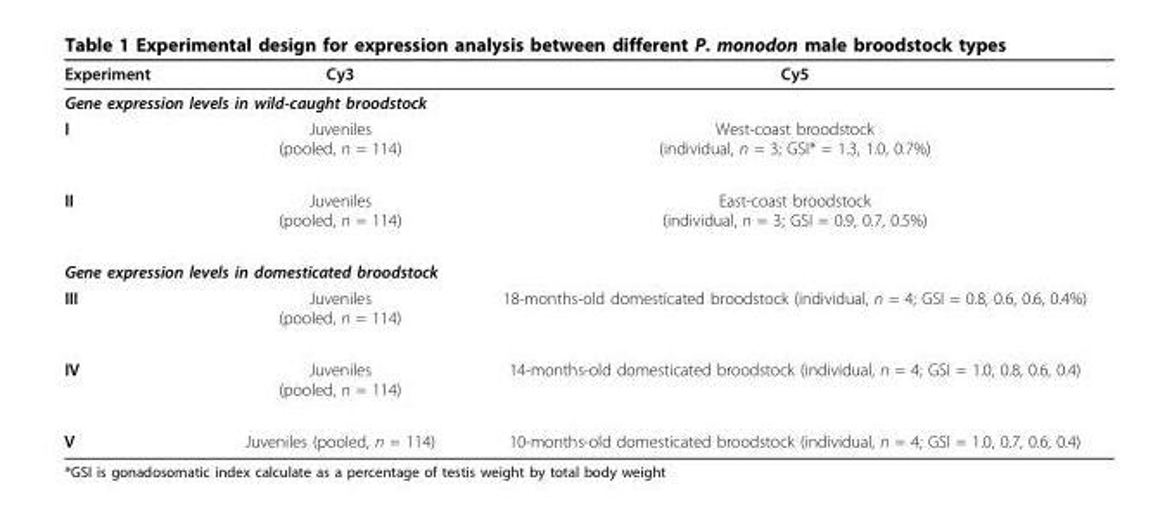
<table><thead><tr><td>Experiment</td><td>Cy3</td><td>Cy5</td></tr></thead><tbody><tr><td colspan="3">Gene expression levels in wild-caught broodstock</td></tr><tr><td>I</td><td>Juveniles (pooled, n = 114)</td><td>West-coast broodstock (individual, n = 3; GSI* = 1.3, 1.0, 0.7%)</td></tr><tr><td>II</td><td>Juveniles (pooled, n = 114)</td><td>East-coast broodstock (individual, n = 3; GSI = 0.9, 0.7, 0.5%)</td></tr><tr><td colspan="3">Gene expression levels in domesticated broodstock</td></tr><tr><td>III</td><td>Juveniles (pooled, n = 114)</td><td>18-months-old domesticated broodstock (individual, n = 4; GSI = 0.8, 0.6, 0.6, 0.4%)</td></tr><tr><td>IV</td><td>Juveniles (pooled, n = 114)</td><td>14-months-old domesticated broodstock (individual, n = 4; GSI = 1.0, 0.8, 0.6, 0.4)</td></tr><tr><td>V</td><td>Juveniles (pooled, n = 114)</td><td>10-months-old domesticated broodstock (individual, n = 4; GSI = 1.0, 0.7, 0.6, 0.4)</td></tr></tbody></table>